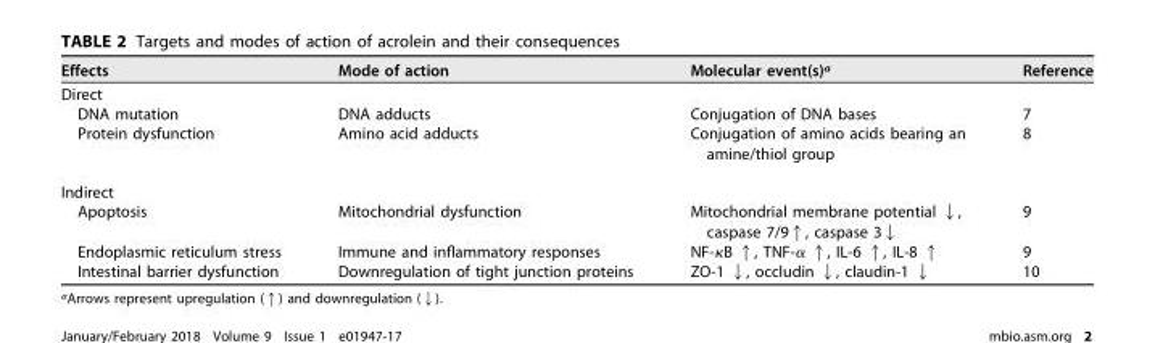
<table><thead><tr><td>Effects</td><td>Mode of action</td><td>Molecular event(s)<sup>a</sup></td><td>Reference</td></tr></thead><tbody><tr><td colspan="4">Direct</td></tr><tr><td>DNA mutation</td><td>DNA adducts</td><td>Conjugation of DNA bases</td><td>7</td></tr><tr><td>Protein dysfunction</td><td>Amino acid adducts</td><td>Conjugation of amino acids bearing an amine/thiol group</td><td>8</td></tr><tr><td colspan="4">Indirect</td></tr><tr><td>Apoptosis</td><td>Mitochondrial dysfunction</td><td>Mitochondrial membrane potential ↓, caspase 7/9↑, caspase 3↓</td><td>9</td></tr><tr><td>Endoplasmic reticulum stress</td><td>Immune and inflammatory responses</td><td>NF-κB ↑, TNF-α ↑, IL-6 ↑, IL-8 ↑</td><td>9</td></tr><tr><td>Intestinal barrier dysfunction</td><td>Downregulation of tight junction proteins</td><td>ZO-1 ↓, occludin ↓, claudin-1 ↓</td><td>10</td></tr></tbody></table>